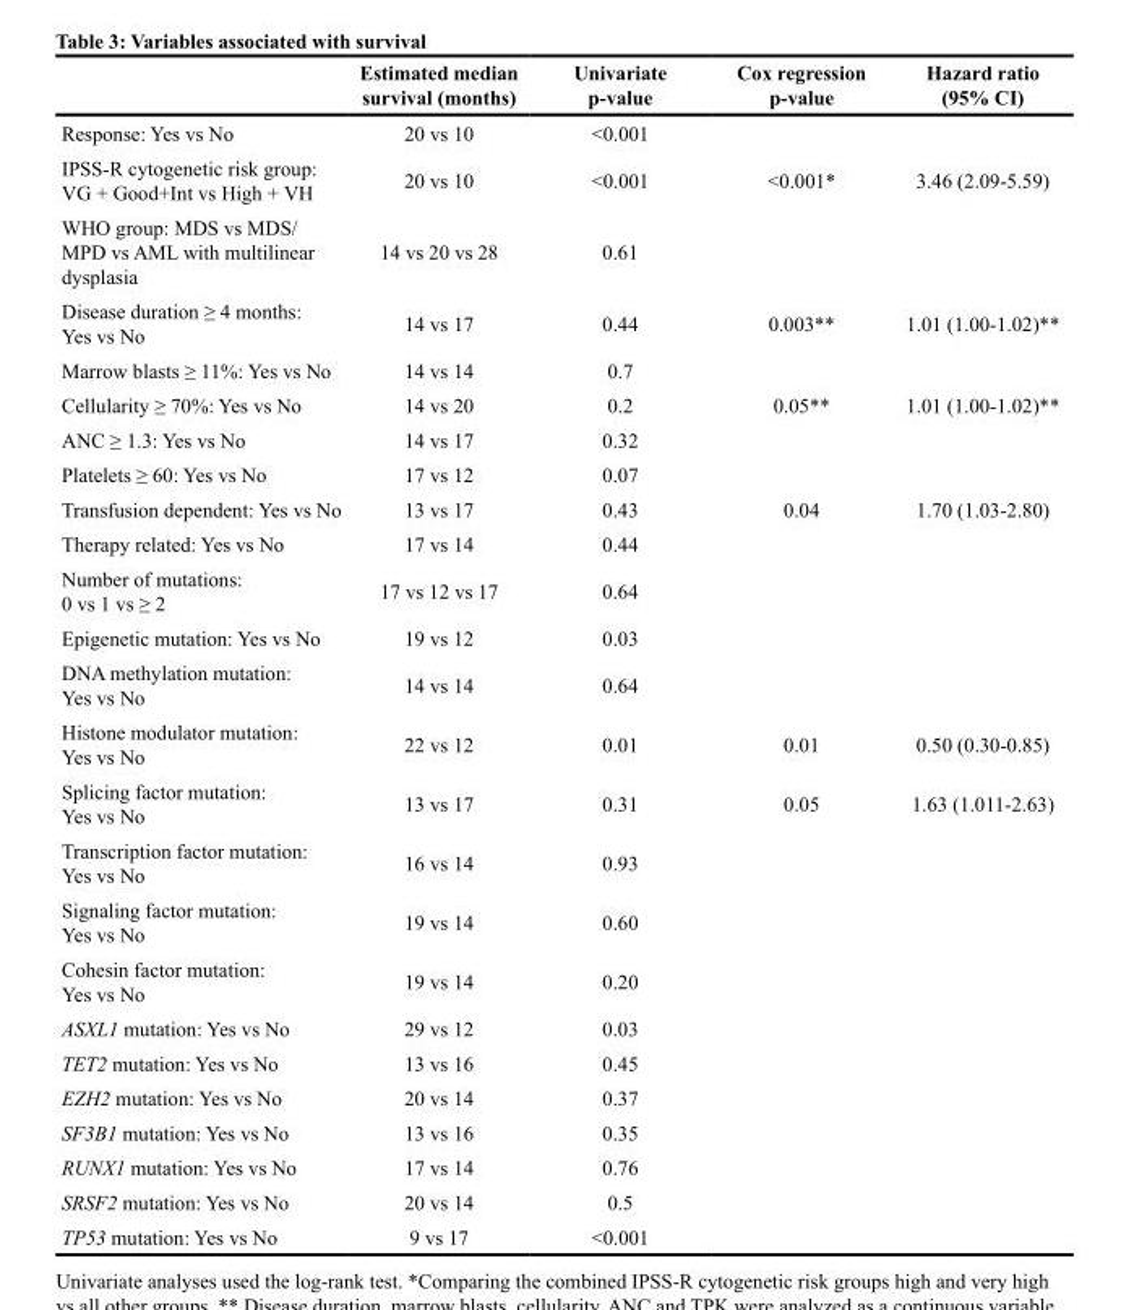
<table><thead><tr><td></td><td>Estimated median survival (months)</td><td>Univariate p-value</td><td>Cox regression p-value</td><td>Hazard ratio (95% CI)</td></tr></thead><tbody><tr><td>Response: Yes vs No</td><td>20 vs 10</td><td>&lt;0.001</td><td></td><td></td></tr><tr><td>IPSS-R cytogenetic risk group: VG + Good+Int vs High + VH</td><td>20 vs 10</td><td>&lt;0.001</td><td>&lt;0.001*</td><td>3.46 (2.09-5.59)</td></tr><tr><td>WHO group: MDS vs MDS/ MPD vs AML with multilinear dysplasia</td><td>14 vs 20 vs 28</td><td>0.61</td><td></td><td></td></tr><tr><td>Disease duration ≥ 4 months: Yes vs No</td><td>14 vs 17</td><td>0.44</td><td>0.003**</td><td>1.01 (1.00-1.02)**</td></tr><tr><td>Marrow blasts ≥ 11%: Yes vs No</td><td>14 vs 14</td><td>0.7</td><td></td><td></td></tr><tr><td>Cellularity ≥ 70%: Yes vs No</td><td>14 vs 20</td><td>0.2</td><td>0.05**</td><td>1.01 (1.00-1.02)**</td></tr><tr><td>ANC ≥ 1.3: Yes vs No</td><td>14 vs 17</td><td>0.32</td><td></td><td></td></tr><tr><td>Platelets ≥ 60: Yes vs No</td><td>17 vs 12</td><td>0.07</td><td></td><td></td></tr><tr><td>Transfusion dependent: Yes vs No</td><td>13 vs 17</td><td>0.43</td><td>0.04</td><td>1.70 (1.03-2.80)</td></tr><tr><td>Therapy related: Yes vs No</td><td>17 vs 14</td><td>0.44</td><td></td><td></td></tr><tr><td>Number of mutations: 0 vs 1 vs ≥ 2</td><td>17 vs 12 vs 17</td><td>0.64</td><td></td><td></td></tr><tr><td>Epigenetic mutation: Yes vs No</td><td>19 vs 12</td><td>0.03</td><td></td><td></td></tr><tr><td>DNA methylation mutation: Yes vs No</td><td>14 vs 14</td><td>0.64</td><td></td><td></td></tr><tr><td>Histone modulator mutation: Yes vs No</td><td>22 vs 12</td><td>0.01</td><td>0.01</td><td>0.50 (0.30-0.85)</td></tr><tr><td>Splicing factor mutation: Yes vs No</td><td>13 vs 17</td><td>0.31</td><td>0.05</td><td>1.63 (1.011-2.63)</td></tr><tr><td>Transcription factor mutation: Yes vs No</td><td>16 vs 14</td><td>0.93</td><td></td><td></td></tr><tr><td>Signaling factor mutation: Yes vs No</td><td>19 vs 14</td><td>0.60</td><td></td><td></td></tr><tr><td>Cohesin factor mutation: Yes vs No</td><td>19 vs 14</td><td>0.20</td><td></td><td></td></tr><tr><td>ASXL1 mutation: Yes vs No</td><td>29 vs 12</td><td>0.03</td><td></td><td></td></tr><tr><td>TET2 mutation: Yes vs No</td><td>13 vs 16</td><td>0.45</td><td></td><td></td></tr><tr><td>EZH2 mutation: Yes vs No</td><td>20 vs 14</td><td>0.37</td><td></td><td></td></tr><tr><td>SF3B1 mutation: Yes vs No</td><td>13 vs 16</td><td>0.35</td><td></td><td></td></tr><tr><td>RUNX1 mutation: Yes vs No</td><td>17 vs 14</td><td>0.76</td><td></td><td></td></tr><tr><td>SRSF2 mutation: Yes vs No</td><td>20 vs 14</td><td>0.5</td><td></td><td></td></tr><tr><td>TP53 mutation: Yes vs No</td><td>9 vs 17</td><td>&lt;0.001</td><td></td><td></td></tr></tbody></table>